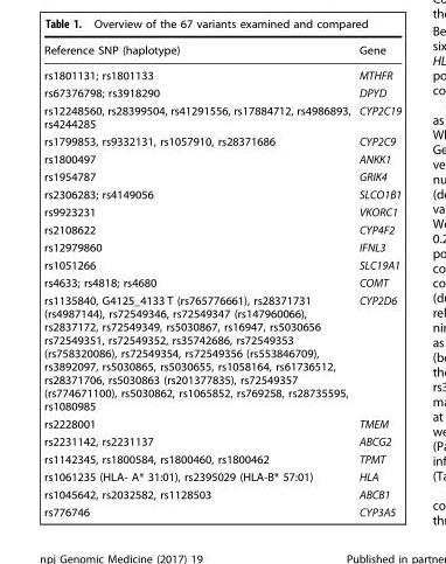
<table><thead><tr><td>Reference SNP (haplotype)</td><td>Gene</td></tr></thead><tbody><tr><td>rs1801131; rs1801133</td><td>MTHFR</td></tr><tr><td>rs67376798; rs3918290</td><td>DPYD</td></tr><tr><td>rs12248560, rs28399504, rs41291556, rs17884712, rs4986893, rs4244285</td><td>CYP2C19</td></tr><tr><td>rs1799853, rs9332131, rs1057910, rs28371686</td><td>CYP2C9</td></tr><tr><td>rs1800497</td><td>ANKK1</td></tr><tr><td>rs1954787</td><td>GRIK4</td></tr><tr><td>rs2306283; rs4149056</td><td>SLCO1B1</td></tr><tr><td>rs9923231</td><td>VKORC1</td></tr><tr><td>rs2108622</td><td>CYP4F2</td></tr><tr><td>rs12979860</td><td>IFNL3</td></tr><tr><td>rs1051266</td><td>SLC19A1</td></tr><tr><td>rs4633; rs4818; rs4680</td><td>COMT</td></tr><tr><td>rs1135840, G4125_4133 T (rs765776661), rs28371731 (rs4987144), rs72549346, rs72549347 (rs147960066), rs2837172, rs72549349, rs5030867, rs16947, rs5030656 rs72549351, rs72549352, rs35742686, rs72549353 (rs758320086), rs72549354, rs72549356 (rs553846709), rs3892097, rs5030865, rs5030655, rs1058164, rs61736512, rs28371706, rs5030863 (rs201377835), rs72549357 (rs774671100), rs5030862, rs1065852, rs769258, rs28735595, rs1080985</td><td>CYP2D6</td></tr><tr><td>rs2228001</td><td>TMEM</td></tr><tr><td>rs2231142, rs2231137</td><td>ABCG2</td></tr><tr><td>rs1142345, rs1800584, rs1800460, rs1800462</td><td>TPMT</td></tr><tr><td>rs1061235 (HLA- A* 31:01), rs2395029 (HLA-B* 57:01)</td><td>HLA</td></tr><tr><td>rs1045642, rs2032582, rs1128503</td><td>ABCB1</td></tr><tr><td>rs776746</td><td>CYP3A5</td></tr></tbody></table>